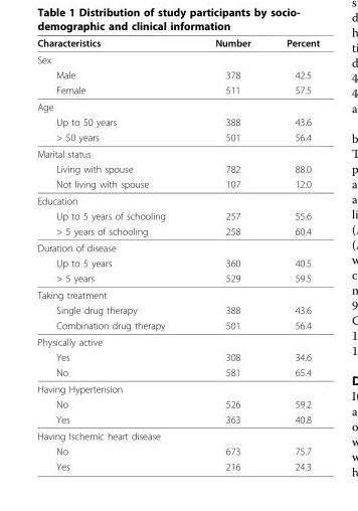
<table><thead><tr><td>Characteristics</td><td>Number</td><td>Percent</td></tr></thead><tbody><tr><td colspan="3">Sex</td></tr><tr><td>Male</td><td>378</td><td>42.5</td></tr><tr><td>Female</td><td>511</td><td>57.5</td></tr><tr><td colspan="3">Age</td></tr><tr><td>Up to 50 years</td><td>388</td><td>43.6</td></tr><tr><td>&gt; 50 years</td><td>501</td><td>56.4</td></tr><tr><td colspan="3">Marital status</td></tr><tr><td>Living with spouse</td><td>782</td><td>88.0</td></tr><tr><td>Not living with spouse</td><td>107</td><td>12.0</td></tr><tr><td colspan="3">Education</td></tr><tr><td>Up to 5 years of schooling</td><td>257</td><td>55.6</td></tr><tr><td>&gt; 5 years of schooling</td><td>258</td><td>60.4</td></tr><tr><td colspan="3">Duration of disease</td></tr><tr><td>Up to 5 years</td><td>360</td><td>40.5</td></tr><tr><td>&gt; 5 years</td><td>529</td><td>59.5</td></tr><tr><td colspan="3">Taking treatment</td></tr><tr><td>Single drug therapy</td><td>388</td><td>43.6</td></tr><tr><td>Combination drug therapy</td><td>501</td><td>56.4</td></tr><tr><td colspan="3">Physically active</td></tr><tr><td>Yes</td><td>308</td><td>34.6</td></tr><tr><td>No</td><td>581</td><td>65.4</td></tr><tr><td colspan="3">Having Hypertension</td></tr><tr><td>No</td><td>526</td><td>59.2</td></tr><tr><td>Yes</td><td>363</td><td>40.8</td></tr><tr><td colspan="3">Having Ischemic heart disease</td></tr><tr><td>No</td><td>673</td><td>75.7</td></tr><tr><td>Yes</td><td>216</td><td>24.3</td></tr></tbody></table>